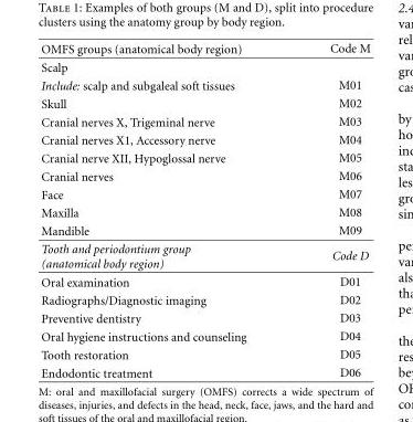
<table><thead><tr><td>OMFS groups (anatomical body region)</td><td>Code M</td></tr></thead><tbody><tr><td colspan="2">Scalp</td></tr><tr><td>Include: scalp and subgaleal soft tissues</td><td>M01</td></tr><tr><td>Skull</td><td>M02</td></tr><tr><td>Cranial nerves X, Trigeminal nerve</td><td>M03</td></tr><tr><td>Cranial nerves X1, Accessory nerve</td><td>M04</td></tr><tr><td>Cranial nerve XII, Hypoglossal nerve</td><td>M05</td></tr><tr><td>Cranial nerves</td><td>M06</td></tr><tr><td>Face</td><td>M07</td></tr><tr><td>Maxilla</td><td>M08</td></tr><tr><td>Mandible</td><td>M09</td></tr><tr><td>Tooth and periodontium group (anatomical body region)</td><td>Code D</td></tr><tr><td>Oral examination</td><td>D01</td></tr><tr><td>Radiographs/Diagnostic imaging</td><td>D02</td></tr><tr><td>Preventive dentistry</td><td>D03</td></tr><tr><td>Oral hygiene instructions and counseling</td><td>D04</td></tr><tr><td>Tooth restoration</td><td>D05</td></tr><tr><td>Endodontic treatment</td><td>D06</td></tr></tbody></table>